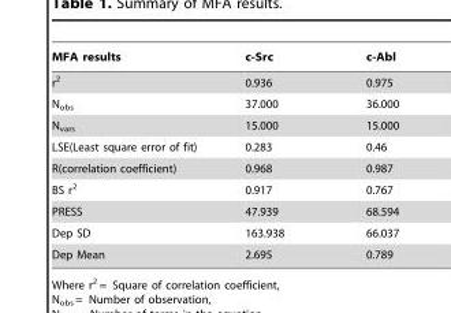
<table><thead><tr><td>MFA results</td><td>c-Src</td><td>c-Abl</td></tr></thead><tbody><tr><td>r<sup>2</sup></td><td>0.936</td><td>0.975</td></tr><tr><td>N<sub>obs</sub></td><td>37.000</td><td>36.000</td></tr><tr><td>N<sub>vars</sub></td><td>15.000</td><td>15.000</td></tr><tr><td>LSE(Least square error of fit)</td><td>0.283</td><td>0.46</td></tr><tr><td>R(correlation coefficient)</td><td>0.968</td><td>0.987</td></tr><tr><td>BS r<sup>2</sup></td><td>0.917</td><td>0.767</td></tr><tr><td>PRESS</td><td>47.939</td><td>68.594</td></tr><tr><td>Dep SD</td><td>163.938</td><td>66.037</td></tr><tr><td>Dep Mean</td><td>2.695</td><td>0.789</td></tr></tbody></table>